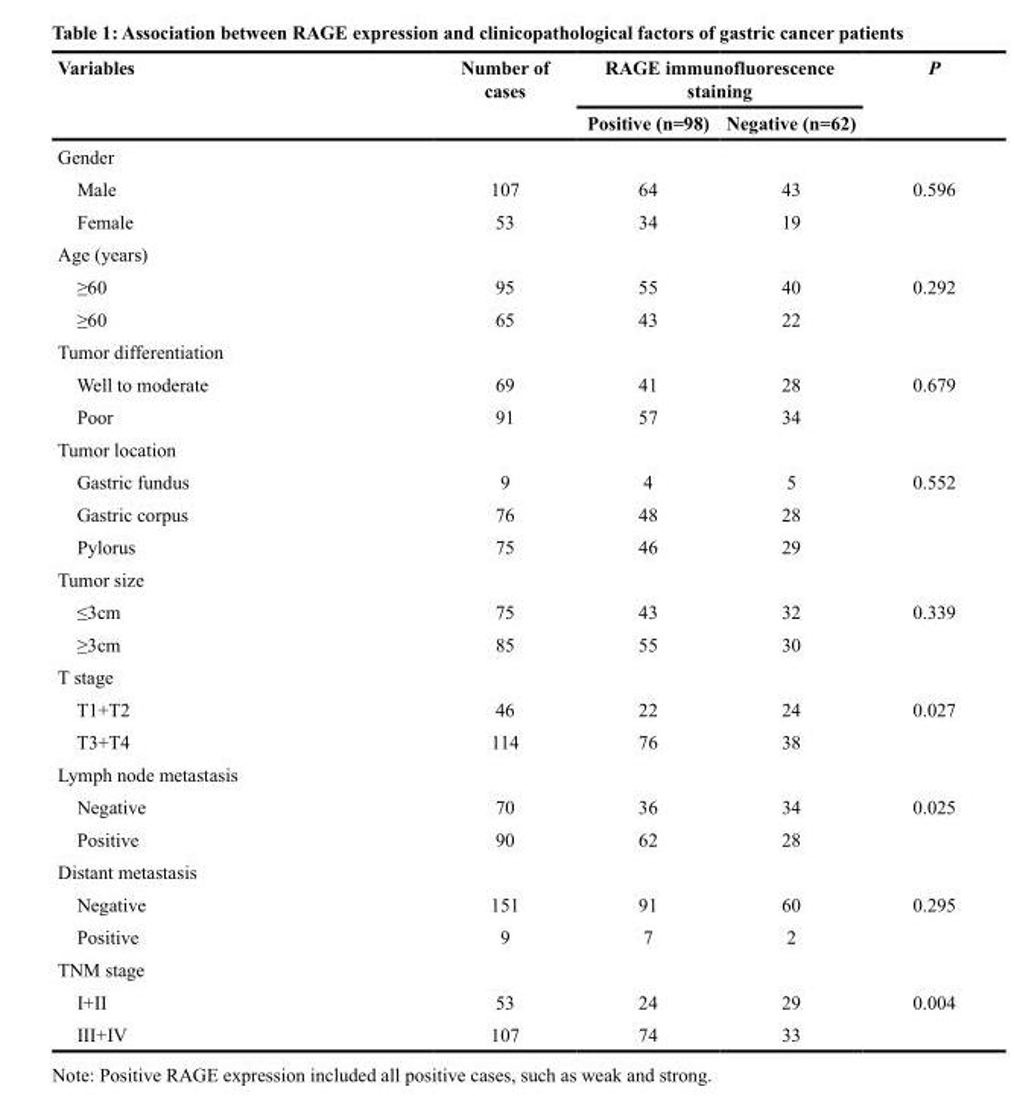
<table><thead><tr><td rowspan="2">Variables</td><td rowspan="2">Number of cases</td><td colspan="2">RAGE immunofluorescence staining</td><td rowspan="2">P</td></tr><tr><td>Positive (n=98)</td><td>Negative (n=62)</td></tr></thead><tbody><tr><td colspan="5">Gender</td></tr><tr><td>Male</td><td>107</td><td>64</td><td>43</td><td>0.596</td></tr><tr><td>Female</td><td>53</td><td>34</td><td>19</td><td></td></tr><tr><td colspan="5">Age (years)</td></tr><tr><td>≥60</td><td>95</td><td>55</td><td>40</td><td>0.292</td></tr><tr><td>≥60</td><td>65</td><td>43</td><td>22</td><td></td></tr><tr><td colspan="5">Tumor differentiation</td></tr><tr><td>Well to moderate</td><td>69</td><td>41</td><td>28</td><td>0.679</td></tr><tr><td>Poor</td><td>91</td><td>57</td><td>34</td><td></td></tr><tr><td colspan="5">Tumor location</td></tr><tr><td>Gastric fundus</td><td>9</td><td>4</td><td>5</td><td>0.552</td></tr><tr><td>Gastric corpus</td><td>76</td><td>48</td><td>28</td><td></td></tr><tr><td>Pylorus</td><td>75</td><td>46</td><td>29</td><td></td></tr><tr><td colspan="5">Tumor size</td></tr><tr><td>≤3cm</td><td>75</td><td>43</td><td>32</td><td>0.339</td></tr><tr><td>≥3cm</td><td>85</td><td>55</td><td>30</td><td></td></tr><tr><td colspan="5">T stage</td></tr><tr><td>T1+T2</td><td>46</td><td>22</td><td>24</td><td>0.027</td></tr><tr><td>T3+T4</td><td>114</td><td>76</td><td>38</td><td></td></tr><tr><td colspan="5">Lymph node metastasis</td></tr><tr><td>Negative</td><td>70</td><td>36</td><td>34</td><td>0.025</td></tr><tr><td>Positive</td><td>90</td><td>62</td><td>28</td><td></td></tr><tr><td colspan="5">Distant metastasis</td></tr><tr><td>Negative</td><td>151</td><td>91</td><td>60</td><td>0.295</td></tr><tr><td>Positive</td><td>9</td><td>7</td><td>2</td><td></td></tr><tr><td colspan="5">TNM stage</td></tr><tr><td>I+II</td><td>53</td><td>24</td><td>29</td><td>0.004</td></tr><tr><td>III+IV</td><td>107</td><td>74</td><td>33</td><td></td></tr></tbody></table>